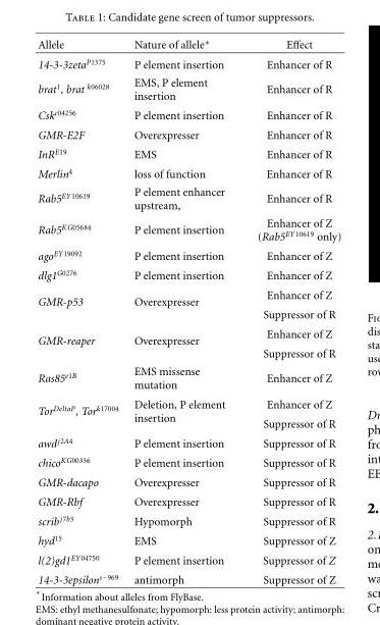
<table><thead><tr><td>Allele</td><td>Nature of allele∗</td><td>Effect</td></tr></thead><tbody><tr><td>14-3-3zeta<sup>P1375</sup></td><td>P element insertion</td><td>Enhancer of R</td></tr><tr><td>brat<sup>1</sup>, brat <sup>k06028</sup></td><td>EMS, P element insertion</td><td>Enhancer of R</td></tr><tr><td>Csk<sup>c04256</sup></td><td>P element insertion</td><td>Enhancer of R</td></tr><tr><td>GMR-E2F</td><td>Overexpresser</td><td>Enhancer of R</td></tr><tr><td>InR<sup>E19</sup></td><td>EMS</td><td>Enhancer of R</td></tr><tr><td>Merlin<sup>4</sup></td><td>loss of function</td><td>Enhancer of R</td></tr><tr><td>Rab5<sup>EY10619</sup></td><td>P element enhancer upstream,</td><td>Enhancer of R</td></tr><tr><td>Rab5<sup>KG05684</sup></td><td>P element insertion</td><td>Enhancer of Z (Rab5<sup>EY10619</sup> only)</td></tr><tr><td>ago<sup>EY19092</sup></td><td>P element insertion</td><td>Enhancer of Z</td></tr><tr><td>dlg1<sup>G0276</sup></td><td>P element insertion</td><td>Enhancer of Z</td></tr><tr><td rowspan="2">GMR-p53</td><td rowspan="2">Overexpresser</td><td>Enhancer of Z</td></tr><tr><td>Suppressor of R</td></tr><tr><td rowspan="2">GMR-reaper</td><td rowspan="2">Overexpresser</td><td>Enhancer of Z</td></tr><tr><td>Suppressor of R</td></tr><tr><td>Ras85<sup>e1B</sup></td><td>EMS missense mutation</td><td>Enhancer of Z</td></tr><tr><td rowspan="2">Tor<sup>DeltaP</sup>, Tor<sup>k17004</sup></td><td rowspan="2">Deletion, P element insertion</td><td>Enhancer of Z</td></tr><tr><td>Suppressor of R</td></tr><tr><td>awd<sup>j2A4</sup></td><td>P element insertion</td><td>Suppressor of R</td></tr><tr><td>chico<sup>KG00336</sup></td><td>P element insertion</td><td>Suppressor of R</td></tr><tr><td>GMR-dacapo</td><td>Overexpresser</td><td>Suppressor of R</td></tr><tr><td>GMR-Rbf</td><td>Overexpresser</td><td>Suppressor of R</td></tr><tr><td>scrib<sup>j7b3</sup></td><td>Hypomorph</td><td>Suppressor of R</td></tr><tr><td>hyd<sup>15</sup></td><td>EMS</td><td>Suppressor of Z</td></tr><tr><td>l(2)gd1<sup>EY04750</sup></td><td>P element insertion</td><td>Suppressor of Z</td></tr><tr><td>14-3-3epsilon<sup>s−969</sup></td><td>antimorph</td><td>Suppressor of Z</td></tr></tbody></table>